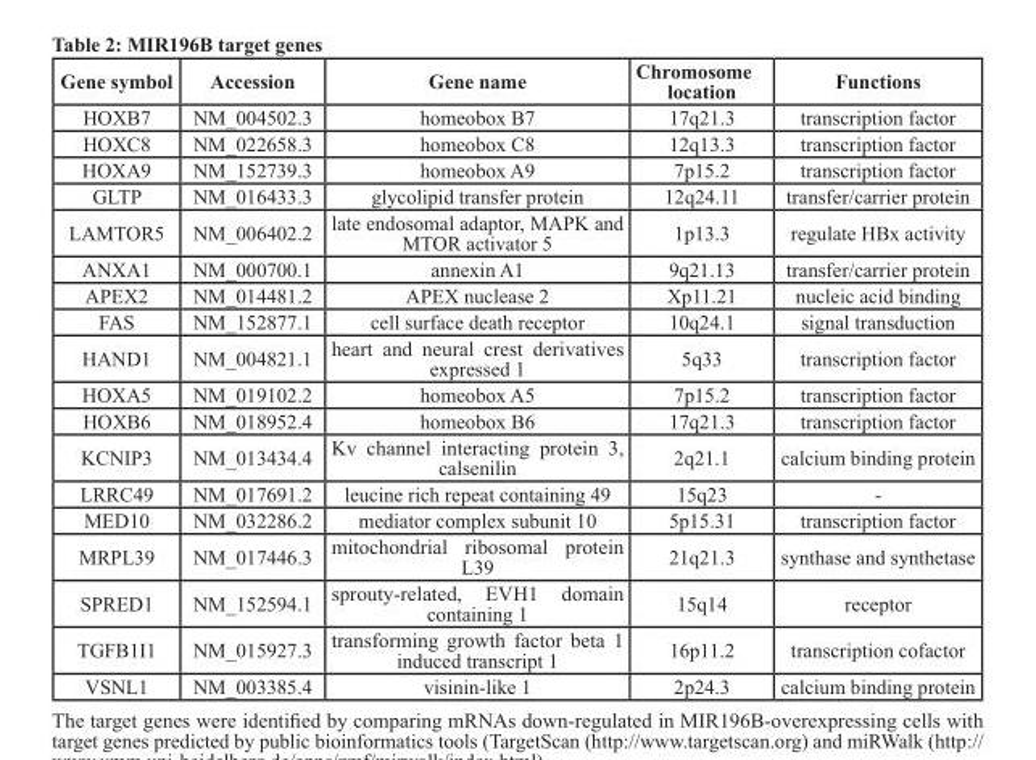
<table><thead><tr><td>Gene symbol</td><td>Accession</td><td>Gene name</td><td>Chromosome location</td><td>Functions</td></tr></thead><tbody><tr><td>HOXB7</td><td>NM_004502.3</td><td>homeobox B7</td><td>17q21.3</td><td>transcription factor</td></tr><tr><td>HOXC8</td><td>NM_022658.3</td><td>homeobox C8</td><td>12q13.3</td><td>transcription factor</td></tr><tr><td>HOXA9</td><td>NM_152739.3</td><td>homeobox A9</td><td>7p15.2</td><td>transcription factor</td></tr><tr><td>GLTP</td><td>NM_016433.3</td><td>glycolipid transfer protein</td><td>12q24.11</td><td>transfer/carrier protein</td></tr><tr><td>LAMTOR5</td><td>NM_006402.2</td><td>late endosomal adaptor, MAPK and MTOR activator 5</td><td>1p13.3</td><td>regulate HBx activity</td></tr><tr><td>ANXA1</td><td>NM_000700.1</td><td>annexin A1</td><td>9q21.13</td><td>transfer/carrier protein</td></tr><tr><td>APEX2</td><td>NM_014481.2</td><td>APEX nuclease 2</td><td>Xp11.21</td><td>nucleic acid binding</td></tr><tr><td>FAS</td><td>NM_152877.1</td><td>cell surface death receptor</td><td>10q24.1</td><td>signal transduction</td></tr><tr><td>HAND1</td><td>NM_004821.1</td><td>heart and neural crest derivatives expressed 1</td><td>5q33</td><td>transcription factor</td></tr><tr><td>HOXA5</td><td>NM_019102.2</td><td>homeobox A5</td><td>7p15.2</td><td>transcription factor</td></tr><tr><td>HOXB6</td><td>NM_018952.4</td><td>homeobox B6</td><td>17q21.3</td><td>transcription factor</td></tr><tr><td>KCNIP3</td><td>NM_013434.4</td><td>Kv channel interacting protein 3, calsenilin</td><td>2q21.1</td><td>calcium binding protein</td></tr><tr><td>LRRC49</td><td>NM_017691.2</td><td>leucine rich repeat containing 49</td><td>15q23</td><td>-</td></tr><tr><td>MED10</td><td>NM_032286.2</td><td>mediator complex subunit 10</td><td>5p15.31</td><td>transcription factor</td></tr><tr><td>MRPL39</td><td>NM_017446.3</td><td>mitochondrial ribosomal protein L39</td><td>21q21.3</td><td>synthase and synthetase</td></tr><tr><td>SPRED1</td><td>NM_152594.1</td><td>sprouty-related, EVH1 domain containing 1</td><td>15q14</td><td>receptor</td></tr><tr><td>TGFB1I1</td><td>NM_015927.3</td><td>transforming growth factor beta 1 induced transcript 1</td><td>16p11.2</td><td>transcription cofactor</td></tr><tr><td>VSNL1</td><td>NM_003385.4</td><td>visinin-like 1</td><td>2p24.3</td><td>calcium binding protein</td></tr></tbody></table>